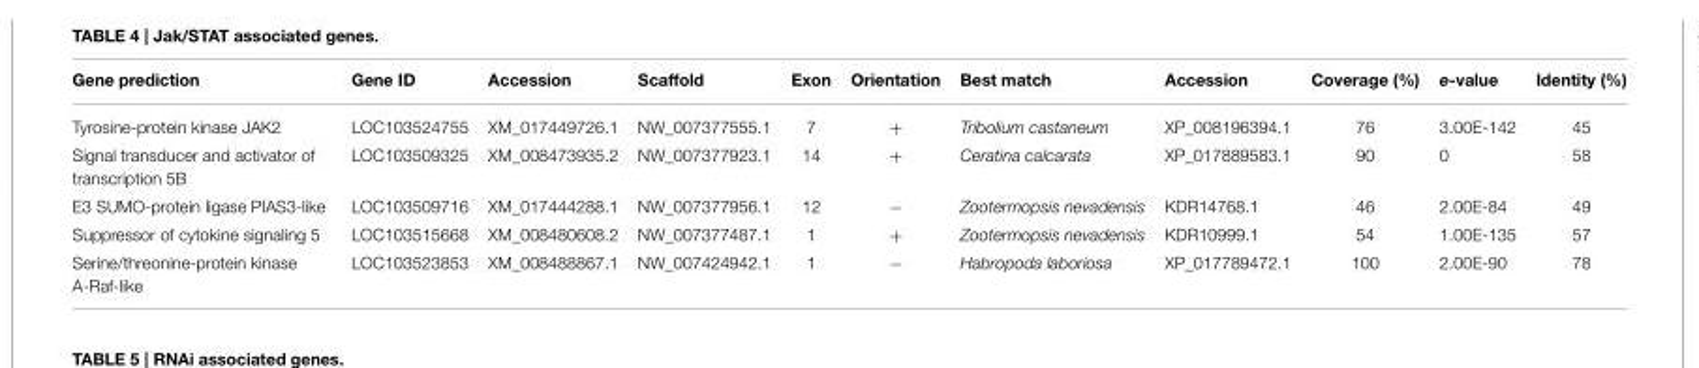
<table><thead><tr><td>Gene prediction</td><td>Gene ID</td><td>Accession</td><td>Scaffold</td><td>Exon</td><td>Orientation</td><td>Best match</td><td>Accession</td><td>Coverage (%)</td><td>e-value</td><td>Identity (%)</td></tr></thead><tbody><tr><td>Tyrosine-protein kinase JAK2</td><td>LOC103524755</td><td>XM_017449726.1</td><td>NW_007377555.1</td><td>7</td><td>+</td><td>Tribolium castaneum</td><td>XP_008196394.1</td><td>76</td><td>3.00E-142</td><td>45</td></tr><tr><td>Signal transducer and activator of transcription 5B</td><td>LOC103509325</td><td>XM_008473935.2</td><td>NW_007377923.1</td><td>14</td><td>+</td><td>Ceratina calcarata</td><td>XP_017889583.1</td><td>90</td><td>0</td><td>58</td></tr><tr><td>E3 SUMO-protein ligase PIAS3-like</td><td>LOC103509716</td><td>XM_017444288.1</td><td>NW_007377956.1</td><td>12</td><td>−</td><td>Zootermopsis nevadensis</td><td>KDR14768.1</td><td>46</td><td>2.00E-84</td><td>49</td></tr><tr><td>Suppressor of cytokine signaling 5</td><td>LOC103515668</td><td>XM_008480608.2</td><td>NW_007377487.1</td><td>1</td><td>+</td><td>Zootermopsis nevadensis</td><td>KDR10999.1</td><td>54</td><td>1.00E-135</td><td>57</td></tr><tr><td>Serine/threonine-protein kinase A-Raf-like</td><td>LOC103523853</td><td>XM_008488867.1</td><td>NW_007424942.1</td><td>1</td><td>−</td><td>Habropoda laboriosa</td><td>XP_017789472.1</td><td>100</td><td>2.00E-90</td><td>78</td></tr></tbody></table>